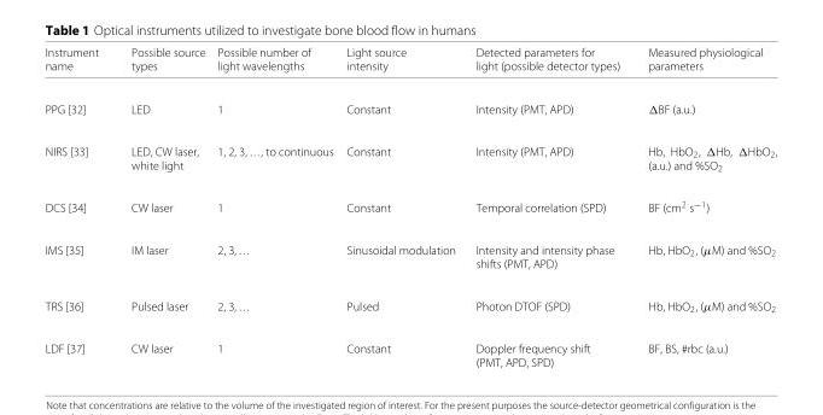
<table><thead><tr><td>Instrument name</td><td>Possible source types</td><td>Possible number of light wavelengths</td><td>Light source intensity</td><td>Detected parameters for light (possible detector types)</td><td>Measured physiological parameters</td></tr></thead><tbody><tr><td>PPG [32]</td><td>LED</td><td>1</td><td>Constant</td><td>Intensity (PMT, APD)</td><td>ΔBF (a.u.)</td></tr><tr><td>NIRS [33]</td><td>LED, CW laser, white light</td><td>1, 2, 3, ..., to continuous</td><td>Constant</td><td>Intensity (PMT, APD)</td><td>Hb, HbO<sub>2</sub>, ΔHb, ΔHbO<sub>2</sub>, (a.u.) and %SO<sub>2</sub></td></tr><tr><td>DCS [34]</td><td>CW laser</td><td>1</td><td>Constant</td><td>Temporal correlation (SPD)</td><td>BF (cm<sup>2</sup> s<sup>−1</sup>)</td></tr><tr><td>IMS [35]</td><td>IM laser</td><td>2, 3, ...</td><td>Sinusoidal modulation</td><td>Intensity and intensity phase shifts (PMT, APD)</td><td>Hb, HbO<sub>2</sub>, (μM) and %SO<sub>2</sub></td></tr><tr><td>TRS [36]</td><td>Pulsed laser</td><td>2, 3, ...</td><td>Pulsed</td><td>Photon DTOF (SPD)</td><td>Hb, HbO<sub>2</sub>, (μM) and %SO<sub>2</sub></td></tr><tr><td>LDF [37]</td><td>CW laser</td><td>1</td><td>Constant</td><td>Doppler frequency shift (PMT, APD, SPD)</td><td>BF, BS, #rbc (a.u.)</td></tr></tbody></table>